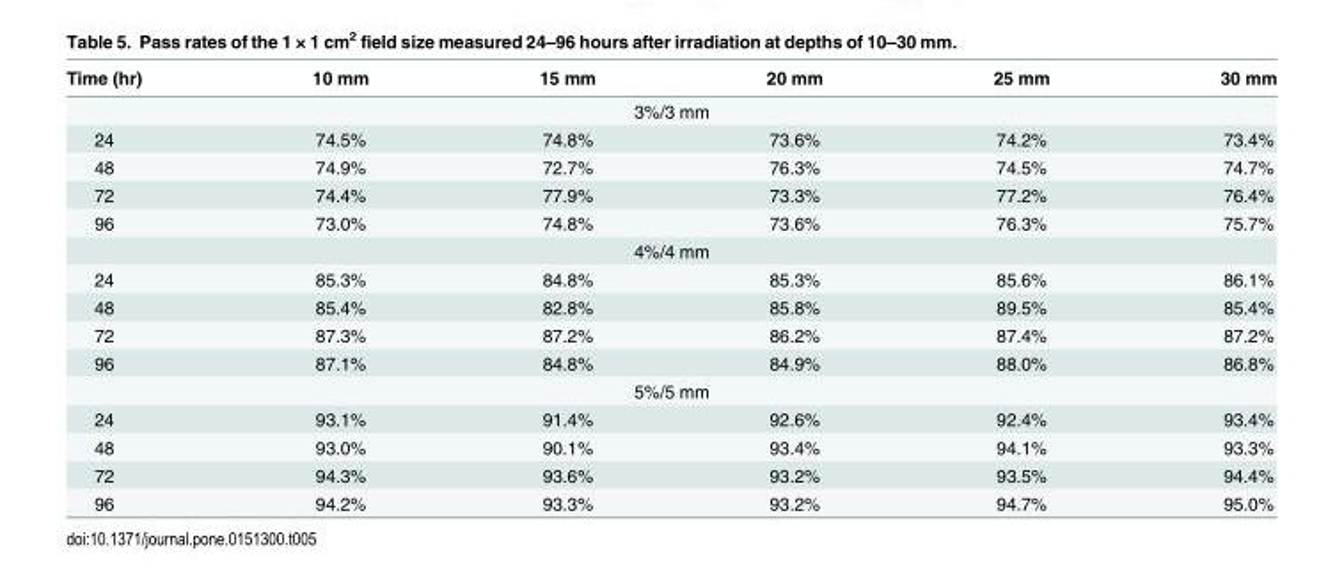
<table><thead><tr><td>Time (hr)</td><td>10 mm</td><td>15 mm</td><td>20 mm</td><td>25 mm</td><td>30 mm</td></tr></thead><tbody><tr><td colspan="6">3%/3 mm</td></tr><tr><td>24</td><td>74.5%</td><td>74.8%</td><td>73.6%</td><td>74.2%</td><td>73.4%</td></tr><tr><td>48</td><td>74.9%</td><td>72.7%</td><td>76.3%</td><td>74.5%</td><td>74.7%</td></tr><tr><td>72</td><td>74.4%</td><td>77.9%</td><td>73.3%</td><td>77.2%</td><td>76.4%</td></tr><tr><td>96</td><td>73.0%</td><td>74.8%</td><td>73.6%</td><td>76.3%</td><td>75.7%</td></tr><tr><td colspan="6">4%/4 mm</td></tr><tr><td>24</td><td>85.3%</td><td>84.8%</td><td>85.3%</td><td>85.6%</td><td>86.1%</td></tr><tr><td>48</td><td>85.4%</td><td>82.8%</td><td>85.8%</td><td>89.5%</td><td>85.4%</td></tr><tr><td>72</td><td>87.3%</td><td>87.2%</td><td>86.2%</td><td>87.4%</td><td>87.2%</td></tr><tr><td>96</td><td>87.1%</td><td>84.8%</td><td>84.9%</td><td>88.0%</td><td>86.8%</td></tr><tr><td colspan="6">5%/5 mm</td></tr><tr><td>24</td><td>93.1%</td><td>91.4%</td><td>92.6%</td><td>92.4%</td><td>93.4%</td></tr><tr><td>48</td><td>93.0%</td><td>90.1%</td><td>93.4%</td><td>94.1%</td><td>93.3%</td></tr><tr><td>72</td><td>94.3%</td><td>93.6%</td><td>93.2%</td><td>93.5%</td><td>94.4%</td></tr><tr><td>96</td><td>94.2%</td><td>93.3%</td><td>93.2%</td><td>94.7%</td><td>95.0%</td></tr></tbody></table>